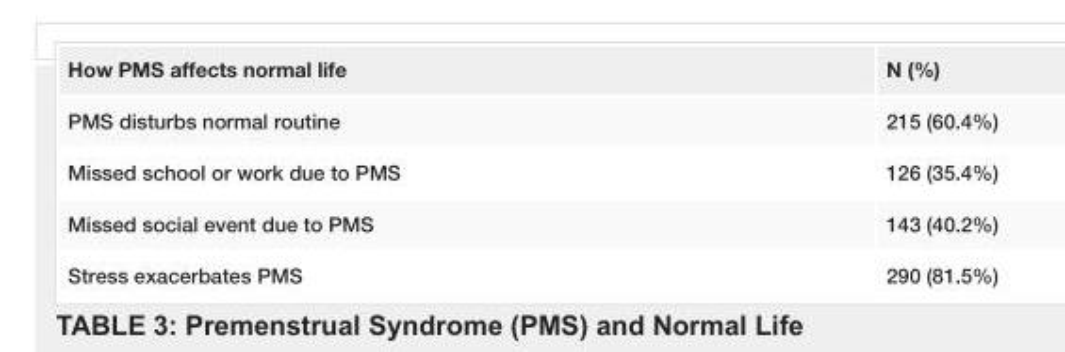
<table><tbody><tr><td>How PMS affects normal life</td><td>N (%)</td></tr><tr><td>PMS disturbs normal routine</td><td>215 (60.4%)</td></tr><tr><td>Missed school or work due to PMS</td><td>126 (35.4%)</td></tr><tr><td>Missed social event due to PMS</td><td>143 (40.2%)</td></tr><tr><td>Stress exacerbates PMS</td><td>290 (81.5%)</td></tr></tbody></table>